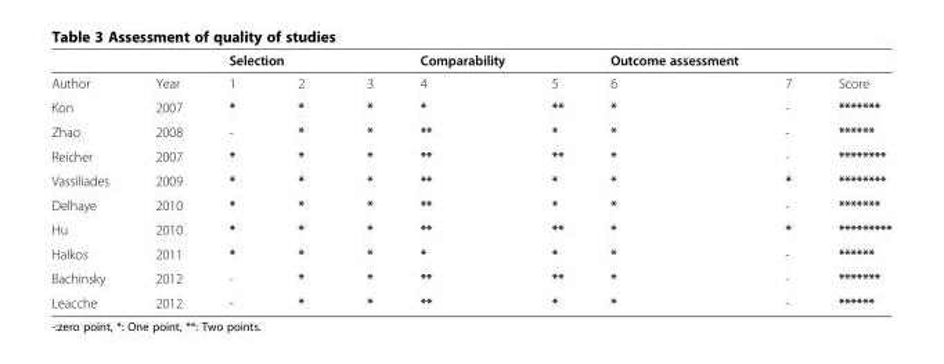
<table><thead><tr><td rowspan="2">Author</td><td rowspan="2">Year</td><td colspan="2">Selection</td><td rowspan="2">3</td><td rowspan="2">Comparability 4</td><td rowspan="2">5</td><td rowspan="2">Outcome assessment 6</td><td rowspan="2">7</td><td rowspan="2">Score</td></tr><tr><td>1</td><td>2</td></tr></thead><tbody><tr><td>Kon</td><td>2007</td><td>*</td><td>*</td><td>*</td><td>*</td><td>**</td><td>*</td><td>-</td><td>*******</td></tr><tr><td>Zhao</td><td>2008</td><td>-</td><td>*</td><td>*</td><td>**</td><td>*</td><td>*</td><td>-</td><td>******</td></tr><tr><td>Reicher</td><td>2007</td><td>*</td><td>*</td><td>*</td><td>**</td><td>**</td><td>*</td><td>-</td><td>********</td></tr><tr><td>Vassiliades</td><td>2009</td><td>*</td><td>*</td><td>*</td><td>**</td><td>*</td><td>*</td><td>*</td><td>********</td></tr><tr><td>Delhaye</td><td>2010</td><td>*</td><td>*</td><td>*</td><td>**</td><td>*</td><td>*</td><td>-</td><td>*******</td></tr><tr><td>Hu</td><td>2010</td><td>*</td><td>*</td><td>*</td><td>**</td><td>**</td><td>*</td><td>*</td><td>*********</td></tr><tr><td>Halkos</td><td>2011</td><td>*</td><td>*</td><td>*</td><td>*</td><td>*</td><td>*</td><td>-</td><td>******</td></tr><tr><td>Bachinsky</td><td>2012</td><td>-</td><td>*</td><td>*</td><td>**</td><td>**</td><td>*</td><td>-</td><td>*******</td></tr><tr><td>Leacche</td><td>2012</td><td>-</td><td>*</td><td>*</td><td>**</td><td>*</td><td>*</td><td>-</td><td>******</td></tr></tbody></table>